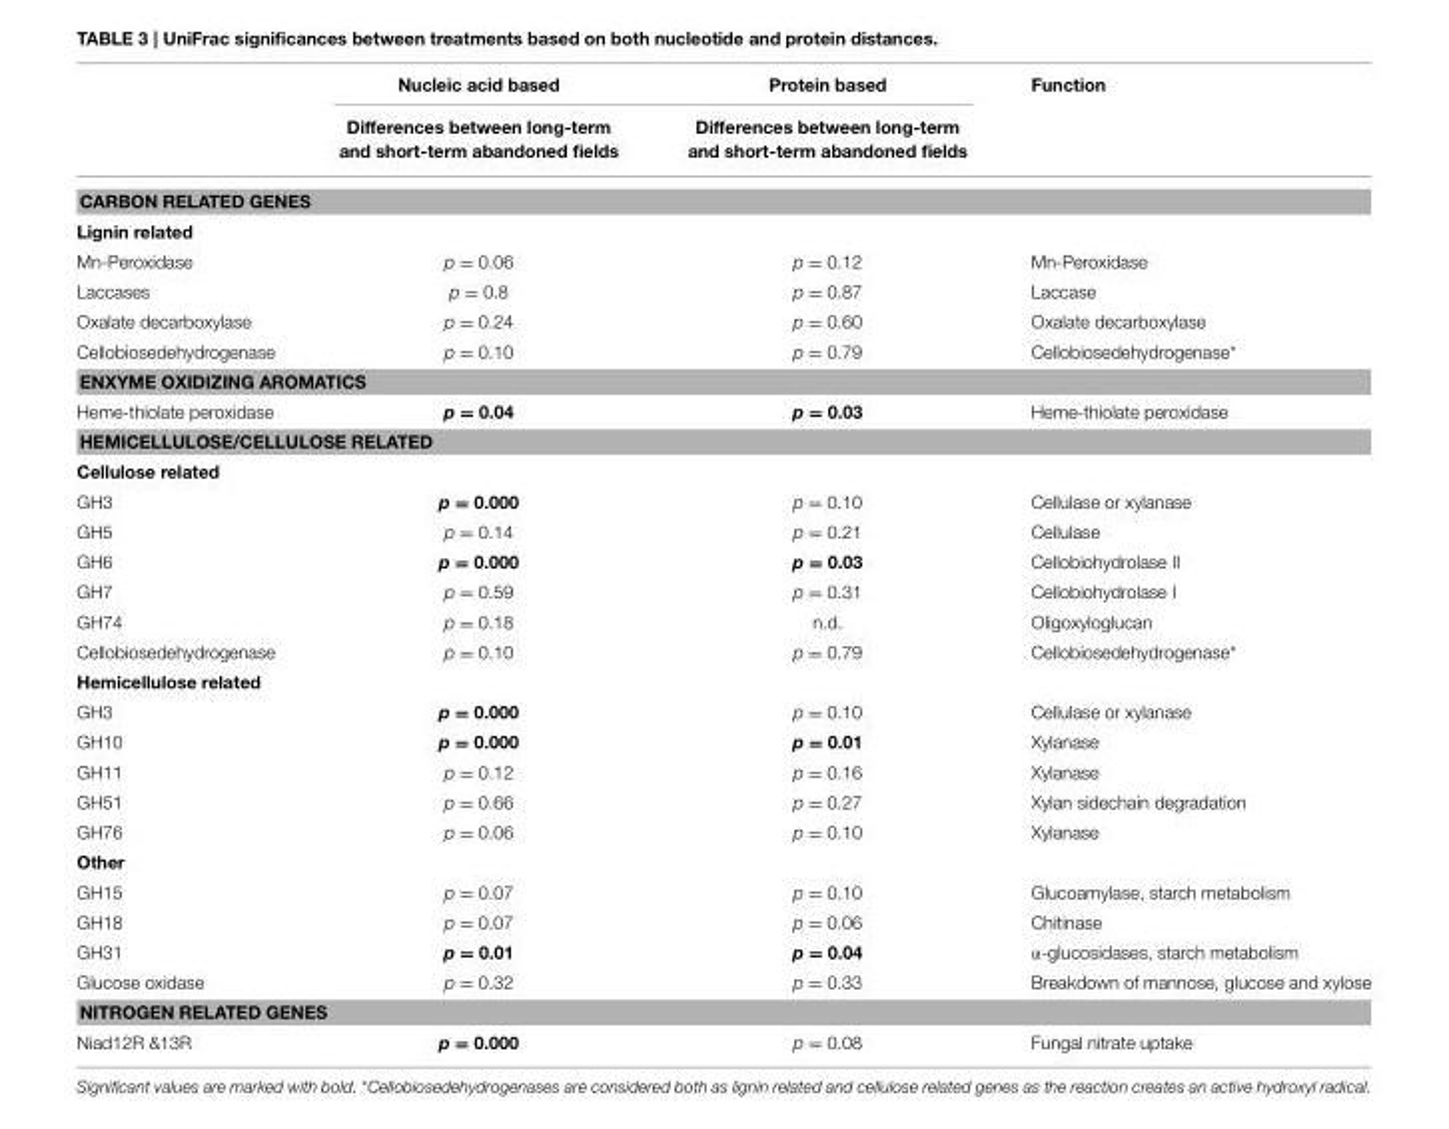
<table><thead><tr><td rowspan="2"></td><td rowspan="2">Nucleic acid based Differences between long-term and short-term abandoned fields</td><td rowspan="2">Protein based Differences between long-term and short-term abandoned fields</td><td rowspan="2">Function</td></tr><tr></tr></thead><tbody><tr><td colspan="4">CARBON RELATED GENES</td></tr><tr><td colspan="4">Lignin related</td></tr><tr><td>Mn-Peroxidase</td><td>p = 0.06</td><td>p = 0.12</td><td>Mn-Peroxidase</td></tr><tr><td>Laccases</td><td>p = 0.8</td><td>p = 0.87</td><td>Laccase</td></tr><tr><td>Oxalate decarboxylase</td><td>p = 0.24</td><td>p = 0.60</td><td>Oxalate decarboxylase</td></tr><tr><td>Cellobiosedehydrogenase</td><td>p = 0.10</td><td>p = 0.79</td><td>Cellobiosedehydrogenase*</td></tr><tr><td colspan="4">ENXYME OXIDIZING AROMATICS</td></tr><tr><td>Heme-thiolate peroxidase</td><td>p = 0.04</td><td>p = 0.03</td><td>Heme-thiolate peroxidase</td></tr><tr><td colspan="4">HEMICELLULOSE/CELLULOSE RELATED</td></tr><tr><td colspan="4">Cellulose related</td></tr><tr><td>GH3</td><td>p = 0.000</td><td>p = 0.10</td><td>Cellulase or xylanase</td></tr><tr><td>GH5</td><td>p = 0.14</td><td>p = 0.21</td><td>Cellulase</td></tr><tr><td>GH6</td><td>p = 0.000</td><td>p = 0.03</td><td>Cellobiohydrolase II</td></tr><tr><td>GH7</td><td>p = 0.59</td><td>p = 0.31</td><td>Cellobiohydrolase I</td></tr><tr><td>GH74</td><td>p = 0.18</td><td>n.d.</td><td>Oligoxyloglucan</td></tr><tr><td>Cellobiosedehydrogenase</td><td>p = 0.10</td><td>p = 0.79</td><td>Cellobiosedehydrogenase*</td></tr><tr><td colspan="4">Hemicellulose related</td></tr><tr><td>GH3</td><td>p = 0.000</td><td>p = 0.10</td><td>Cellulase or xylanase</td></tr><tr><td>GH10</td><td>p = 0.000</td><td>p = 0.01</td><td>Xylanase</td></tr><tr><td>GH11</td><td>p = 0.12</td><td>p = 0.16</td><td>Xylanase</td></tr><tr><td>GH51</td><td>p = 0.66</td><td>p = 0.27</td><td>Xylan sidechain degradation</td></tr><tr><td>GH76</td><td>p = 0.06</td><td>p = 0.10</td><td>Xylanase</td></tr><tr><td colspan="4">Other</td></tr><tr><td>GH15</td><td>p = 0.07</td><td>p = 0.10</td><td>Glucoamylase, starch metabolism</td></tr><tr><td>GH18</td><td>p = 0.07</td><td>p = 0.06</td><td>Chitinase</td></tr><tr><td>GH31</td><td>p = 0.01</td><td>p = 0.04</td><td>α-glucosidases, starch metabolism</td></tr><tr><td>Glucose oxidase</td><td>p = 0.32</td><td>p = 0.33</td><td>Breakdown of mannose, glucose and xylose</td></tr><tr><td colspan="4">NITROGEN RELATED GENES</td></tr><tr><td>Niad12R &amp;13R</td><td>p = 0.000</td><td>p = 0.08</td><td>Fungal nitrate uptake</td></tr></tbody></table>